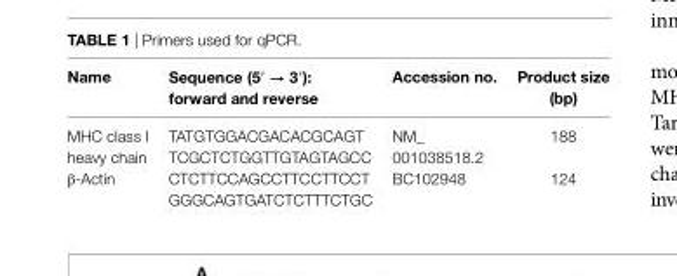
<table><thead><tr><td>name</td><td>sequence (5′ → 3′): forward and reverse</td><td>accession no.</td><td>Product size (bp)</td></tr></thead><tbody><tr><td rowspan="2">MHC class I heavy chain</td><td>TATGTGGACGACACGCAGT</td><td rowspan="2">NM_ 001038518.2</td><td rowspan="2">188</td></tr><tr><td>TCGCTCTGGTTGTAGTAGCC</td></tr><tr><td rowspan="2">β-Actin</td><td>CTCTTCCAGCCTTCCTTCCT</td><td rowspan="2">BC102948</td><td rowspan="2">124</td></tr><tr><td>GGGCAGTGATCTCTTTCTGC</td></tr></tbody></table>